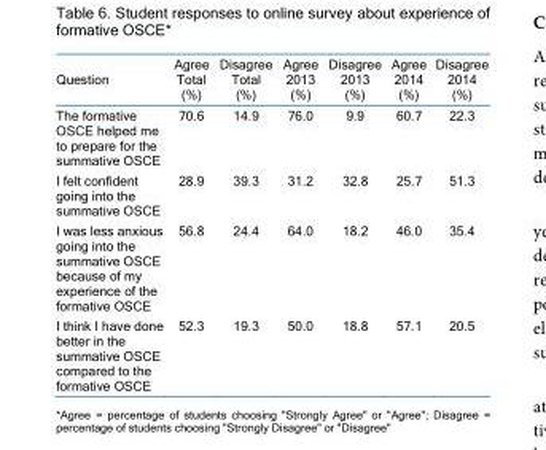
<table><thead><tr><td>Question</td><td>Agree Total (%)</td><td>Disagree Total (%)</td><td>Agree 2013 (%)</td><td>Disagree 2013 (%)</td><td>Agree 2014 (%)</td><td>Disagree 2014 (%)</td></tr></thead><tbody><tr><td>The formative OSCE helped me to prepare for the summative OSCE</td><td>70.6</td><td>14.9</td><td>76.0</td><td>9.9</td><td>60.7</td><td>22.3</td></tr><tr><td>I felt confident going into the summative OSCE</td><td>28.9</td><td>39.3</td><td>31.2</td><td>32.8</td><td>25.7</td><td>51.3</td></tr><tr><td>I was less anxious going into the summative OSCE because of my experience of the formative OSCE</td><td>56.8</td><td>24.4</td><td>64.0</td><td>18.2</td><td>46.0</td><td>35.4</td></tr><tr><td>I think I have done better in the summative OSCE compared to the formative OSCE</td><td>52.3</td><td>19.3</td><td>50.0</td><td>18.8</td><td>57.1</td><td>20.5</td></tr></tbody></table>